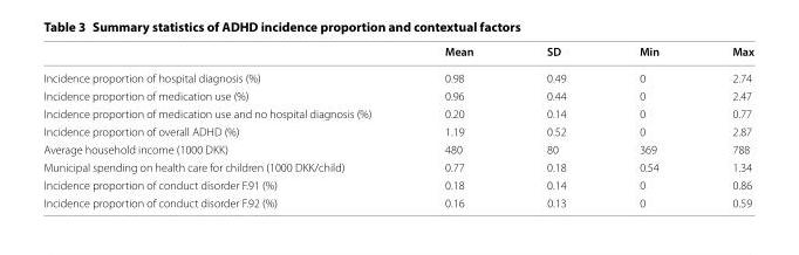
<table><thead><tr><td></td><td>Mean</td><td>SD</td><td>Min</td><td>Max</td></tr></thead><tbody><tr><td>Incidence proportion of hospital diagnosis (%)</td><td>0.98</td><td>0.49</td><td>0</td><td>2.74</td></tr><tr><td>Incidence proportion of medication use (%)</td><td>0.96</td><td>0.44</td><td>0</td><td>2.47</td></tr><tr><td>Incidence proportion of medication use and no hospital diagnosis (%)</td><td>0.20</td><td>0.14</td><td>0</td><td>0.77</td></tr><tr><td>Incidence proportion of overall ADHD (%)</td><td>1.19</td><td>0.52</td><td>0</td><td>2.87</td></tr><tr><td>Average household income (1000 DKK)</td><td>480</td><td>80</td><td>369</td><td>788</td></tr><tr><td>Municipal spending on health care for children (1000 DKK/child)</td><td>0.77</td><td>0.18</td><td>0.54</td><td>1.34</td></tr><tr><td>Incidence proportion of conduct disorder F.91 (%)</td><td>0.18</td><td>0.14</td><td>0</td><td>0.86</td></tr><tr><td>Incidence proportion of conduct disorder F.92 (%)</td><td>0.16</td><td>0.13</td><td>0</td><td>0.59</td></tr></tbody></table>